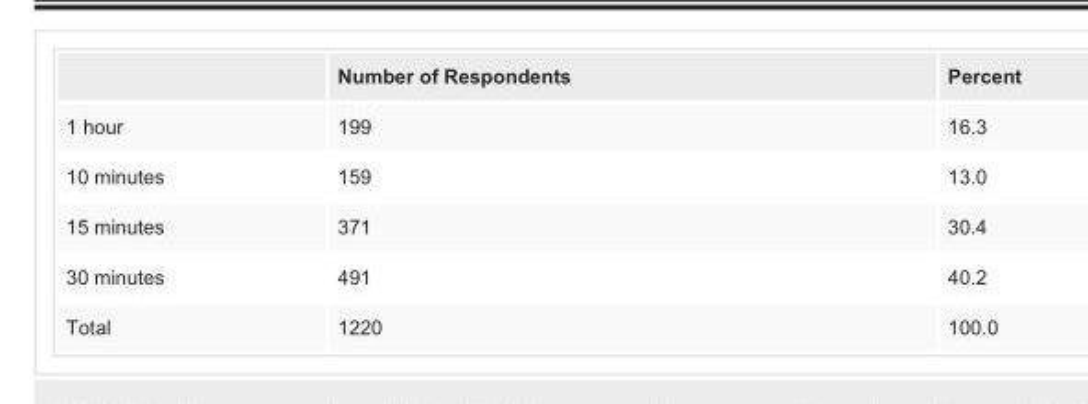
<table><thead><tr><td></td><td>Number of Respondents</td><td>Percent</td></tr></thead><tbody><tr><td>1 hour</td><td>199</td><td>16.3</td></tr><tr><td>10 minutes</td><td>159</td><td>13.0</td></tr><tr><td>15 minutes</td><td>371</td><td>30.4</td></tr><tr><td>30 minutes</td><td>491</td><td>40.2</td></tr><tr><td>Total</td><td>1220</td><td>100.0</td></tr></tbody></table>